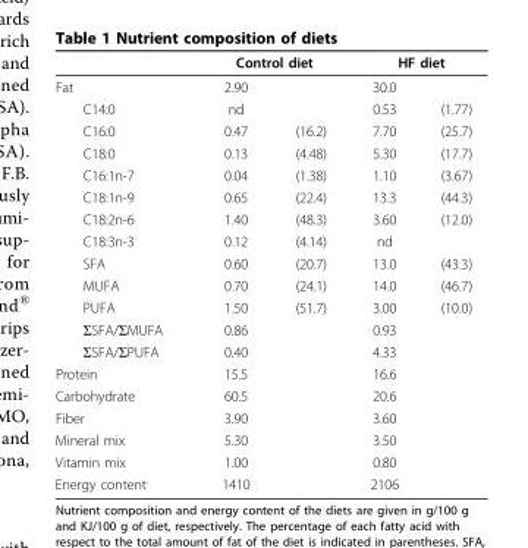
<table><thead><tr><td rowspan="2">Fat</td><td colspan="2">Control diet</td><td colspan="2">HF diet</td></tr><tr><td>2.90</td><td></td><td>30.0</td><td></td></tr></thead><tbody><tr><td>C14:0</td><td>nd</td><td></td><td>0.53</td><td>(1.77)</td></tr><tr><td>C16:0</td><td>0.47</td><td>(16.2)</td><td>7.70</td><td>(25.7)</td></tr><tr><td>C18:0</td><td>0.13</td><td>(4.48)</td><td>5.30</td><td>(17.7)</td></tr><tr><td>C16:1n-7</td><td>0.04</td><td>(1.38)</td><td>1.10</td><td>(3.67)</td></tr><tr><td>C18:1n-9</td><td>0.65</td><td>(22.4)</td><td>13.3</td><td>(44.3)</td></tr><tr><td>C18:2n-6</td><td>1.40</td><td>(48.3)</td><td>3.60</td><td>(12.0)</td></tr><tr><td>C18:3n-3</td><td>0.12</td><td>(4.14)</td><td>nd</td><td></td></tr><tr><td>SFA</td><td>0.60</td><td>(20.7)</td><td>13.0</td><td>(43.3)</td></tr><tr><td>MUFA</td><td>0.70</td><td>(24.1)</td><td>14.0</td><td>(46.7)</td></tr><tr><td>PUFA</td><td>1.50</td><td>(51.7)</td><td>3.00</td><td>(10.0)</td></tr><tr><td>ΣSFA/ΣMUFA</td><td>0.86</td><td></td><td>0.93</td><td></td></tr><tr><td>ΣSFA/ΣPUFA</td><td>0.40</td><td></td><td>4.33</td><td></td></tr><tr><td>Protein</td><td>15.5</td><td></td><td>16.6</td><td></td></tr><tr><td>Carbohydrate</td><td>60.5</td><td></td><td>20.6</td><td></td></tr><tr><td>Fiber</td><td>3.90</td><td></td><td>3.60</td><td></td></tr><tr><td>Mineral mix</td><td>5.30</td><td></td><td>3.50</td><td></td></tr><tr><td>Vitamin mix</td><td>1.00</td><td></td><td>0.80</td><td></td></tr><tr><td>Energy content</td><td>1410</td><td></td><td>2106</td><td></td></tr></tbody></table>